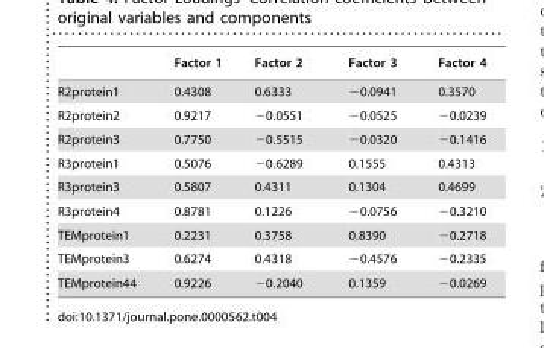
<table><thead><tr><td></td><td>Factor 1</td><td>Factor 2</td><td>Factor 3</td><td>Factor 4</td></tr></thead><tbody><tr><td>R2protein1</td><td>0.4308</td><td>0.6333</td><td>−0.0941</td><td>0.3570</td></tr><tr><td>R2protein2</td><td>0.9217</td><td>−0.0551</td><td>−0.0525</td><td>−0.0239</td></tr><tr><td>R2protein3</td><td>0.7750</td><td>−0.5515</td><td>−0.0320</td><td>−0.1416</td></tr><tr><td>R3protein1</td><td>0.5076</td><td>−0.6289</td><td>0.1555</td><td>0.4313</td></tr><tr><td>R3protein3</td><td>0.5807</td><td>0.4311</td><td>0.1304</td><td>0.4699</td></tr><tr><td>R3protein4</td><td>0.8781</td><td>0.1226</td><td>−0.0756</td><td>−0.3210</td></tr><tr><td>TEMprotein1</td><td>0.2231</td><td>0.3758</td><td>0.8390</td><td>−0.2718</td></tr><tr><td>TEMprotein3</td><td>0.6274</td><td>0.4318</td><td>−0.4576</td><td>−0.2335</td></tr><tr><td>TEMprotein44</td><td>0.9226</td><td>−0.2040</td><td>0.1359</td><td>−0.0269</td></tr></tbody></table>